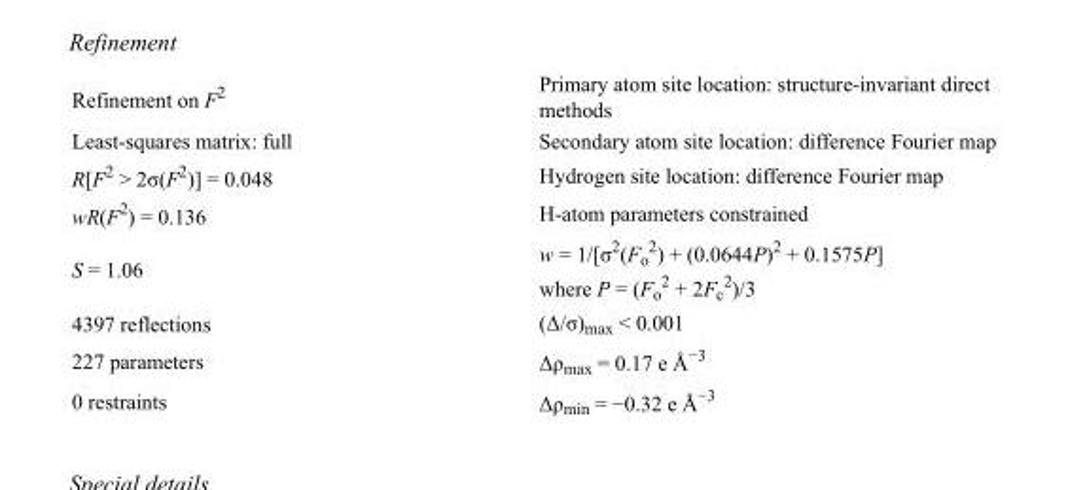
<table><tbody><tr><td>Refinement on F<sup>2</sup></td><td>Primary atom site location: structure-invariant direct methods</td></tr><tr><td>Least-squares matrix: full</td><td>Secondary atom site location: difference Fourier map</td></tr><tr><td>R[F<sup>2</sup> &gt; 2σ(F<sup>2</sup>)] = 0.048</td><td>Hydrogen site location: difference Fourier map</td></tr><tr><td>wR(F<sup>2</sup>) = 0.136</td><td>H-atom parameters constrained</td></tr><tr><td>S = 1.06</td><td>w = 1/[σ<sup>2</sup>(F<sub>o</sub> <sup>2</sup>) + (0.0644P)<sup>2</sup> + 0.1575P] where P = (F<sub>o</sub> <sup>2</sup> + 2F<sub>c</sub> <sup>2</sup>)/3</td></tr><tr><td>4397 reflections</td><td>(Δ/σ)<sub>max</sub> &lt; 0.001</td></tr><tr><td>227 parameters</td><td>Δρ<sub>max</sub> = 0.17 e Å<sup>−3</sup></td></tr><tr><td>0 restraints</td><td>Δρ<sub>min</sub> = −0.32 e Å<sup>−3</sup></td></tr></tbody></table>